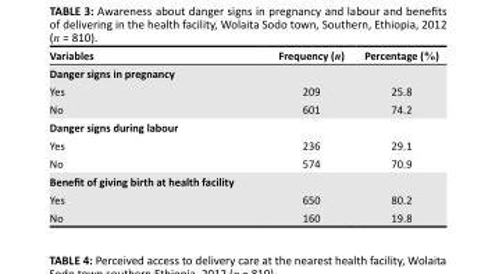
<table><thead><tr><td>Variables</td><td>Frequency (n)</td><td>Percentage (%)</td></tr></thead><tbody><tr><td colspan="3">Danger signs in pregnancy</td></tr><tr><td>Yes</td><td>209</td><td>25.8</td></tr><tr><td>No</td><td>601</td><td>74.2</td></tr><tr><td colspan="3">Danger signs during labour</td></tr><tr><td>Yes</td><td>236</td><td>29.1</td></tr><tr><td>No</td><td>574</td><td>70.9</td></tr><tr><td colspan="3">Benefit of giving birth at health facility</td></tr><tr><td>Yes</td><td>650</td><td>80.2</td></tr><tr><td>No</td><td>160</td><td>19.8</td></tr></tbody></table>